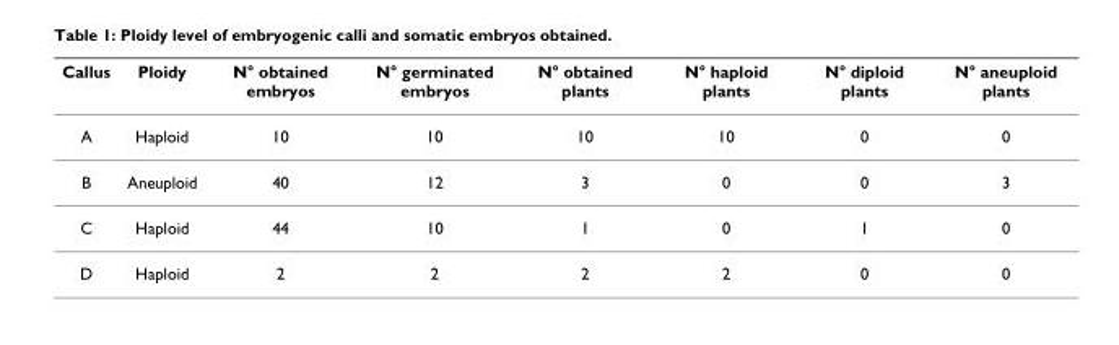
<table><thead><tr><td>Callus</td><td>Ploidy</td><td>N° obtained embryos</td><td>N° germinated embryos</td><td>N° obtained plants</td><td>N° haploid plants</td><td>N° diploid plants</td><td>N° aneuploid plants</td></tr></thead><tbody><tr><td>A</td><td>Haploid</td><td>10</td><td>10</td><td>10</td><td>10</td><td>0</td><td>0</td></tr><tr><td>B</td><td>Aneuploid</td><td>40</td><td>12</td><td>3</td><td>0</td><td>0</td><td>3</td></tr><tr><td>C</td><td>Haploid</td><td>44</td><td>10</td><td>1</td><td>0</td><td>1</td><td>0</td></tr><tr><td>D</td><td>Haploid</td><td>2</td><td>2</td><td>2</td><td>2</td><td>0</td><td>0</td></tr></tbody></table>